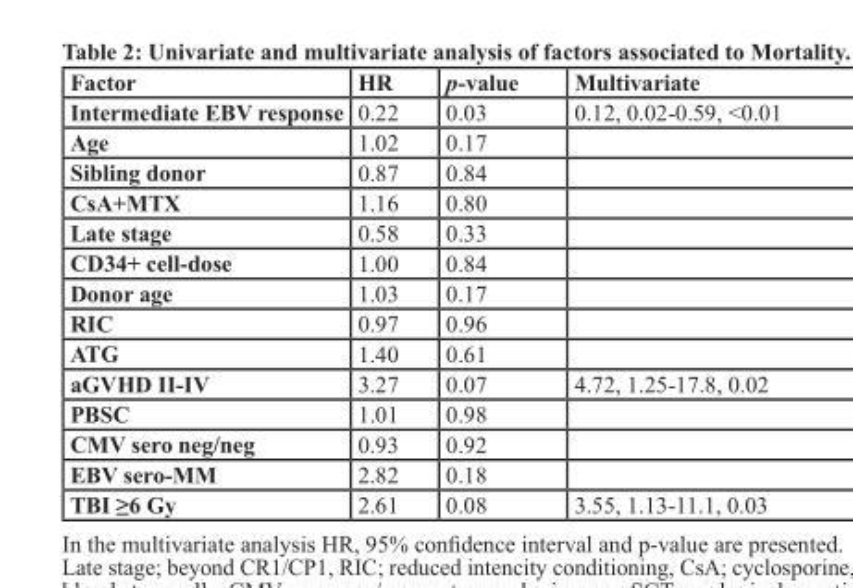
<table><thead><tr><td>Factor</td><td>HR</td><td>p-value</td><td>Multivariate</td></tr></thead><tbody><tr><td>Intermediate EBV response</td><td>0.22</td><td>0.03</td><td>0.12, 0.02-0.59, &lt;0.01</td></tr><tr><td>Age</td><td>1.02</td><td>0.17</td><td></td></tr><tr><td>Sibling donor</td><td>0.87</td><td>0.84</td><td></td></tr><tr><td>CsA+MTX</td><td>1.16</td><td>0.80</td><td></td></tr><tr><td>Late stage</td><td>0.58</td><td>0.33</td><td></td></tr><tr><td>CD34+ cell-dose</td><td>1.00</td><td>0.84</td><td></td></tr><tr><td>Donor age</td><td>1.03</td><td>0.17</td><td></td></tr><tr><td>RIC</td><td>0.97</td><td>0.96</td><td></td></tr><tr><td>ATG</td><td>1.40</td><td>0.61</td><td></td></tr><tr><td>aGVHD II-IV</td><td>3.27</td><td>0.07</td><td>4.72, 1.25-17.8, 0.02</td></tr><tr><td>PBSC</td><td>1.01</td><td>0.98</td><td></td></tr><tr><td>CMV sero neg/neg</td><td>0.93</td><td>0.92</td><td></td></tr><tr><td>EBV sero-MM</td><td>2.82</td><td>0.18</td><td></td></tr><tr><td>TBI ≥6 Gy</td><td>2.61</td><td>0.08</td><td>3.55, 1.13-11.1, 0.03</td></tr></tbody></table>